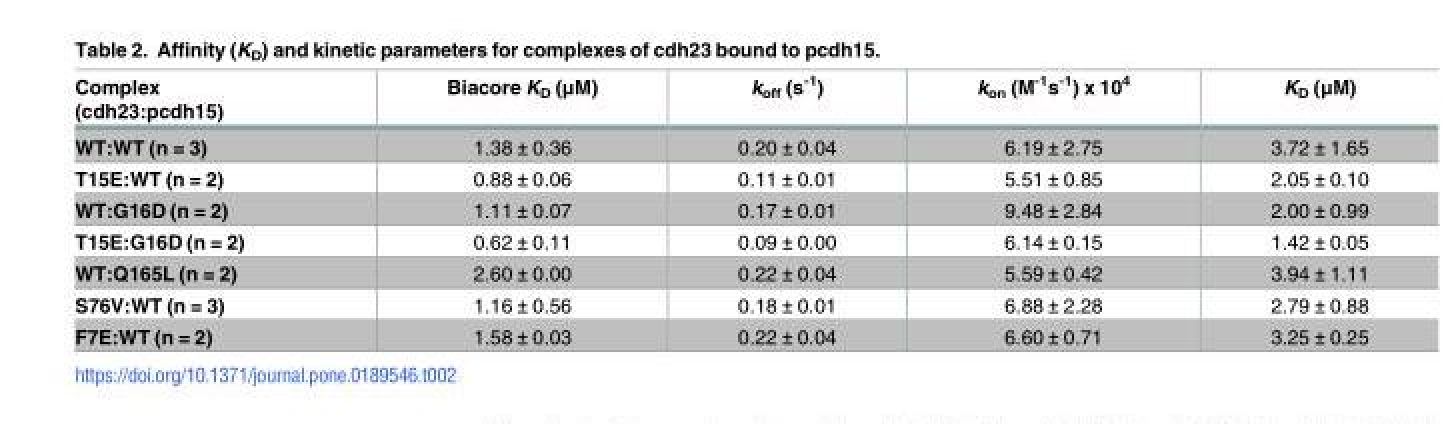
<table><thead><tr><td>Complex (cdh23:pcdh15)</td><td>Biacore K<sub>D</sub> (μM)</td><td>k<sub>off</sub> (s<sup>-1</sup>)</td><td>k<sub>on</sub> (M<sup>-1</sup>s<sup>-1</sup>) x 10<sup>4</sup></td><td>K<sub>D</sub> (μM)</td></tr></thead><tbody><tr><td>WT:WT (n = 3)</td><td>1.38 ± 0.36</td><td>0.20 ± 0.04</td><td>6.19 ± 2.75</td><td>3.72 ± 1.65</td></tr><tr><td>T15E:WT (n = 2)</td><td>0.88 ± 0.06</td><td>0.11 ± 0.01</td><td>5.51 ± 0.85</td><td>2.05 ± 0.10</td></tr><tr><td>WT:G16D (n = 2)</td><td>1.11 ± 0.07</td><td>0.17 ± 0.01</td><td>9.48 ± 2.84</td><td>2.00 ± 0.99</td></tr><tr><td>T15E:G16D (n = 2)</td><td>0.62 ± 0.11</td><td>0.09 ± 0.00</td><td>6.14 ± 0.15</td><td>1.42 ± 0.05</td></tr><tr><td>WT:Q165L (n = 2)</td><td>2.60 ± 0.00</td><td>0.22 ± 0.04</td><td>5.59 ± 0.42</td><td>3.94 ± 1.11</td></tr><tr><td>S76V:WT (n = 3)</td><td>1.16 ± 0.56</td><td>0.18 ± 0.01</td><td>6.88 ± 2.28</td><td>2.79 ± 0.88</td></tr><tr><td>F7E:WT (n = 2)</td><td>1.58 ± 0.03</td><td>0.22 ± 0.04</td><td>6.60 ± 0.71</td><td>3.25 ± 0.25</td></tr></tbody></table>